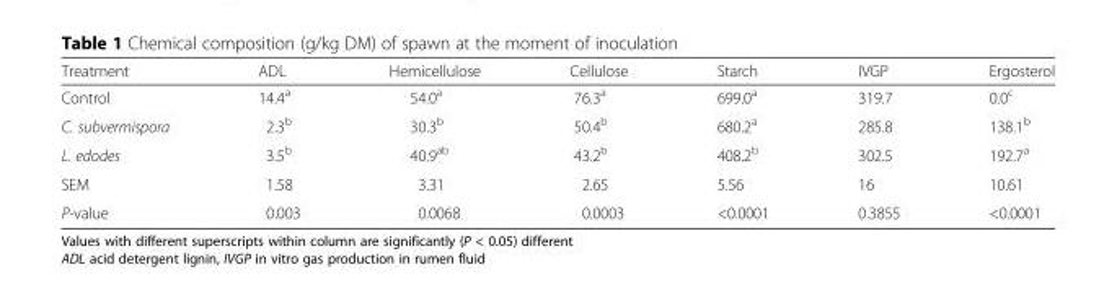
<table><thead><tr><td>Treatment</td><td>ADL</td><td>Hemicellulose</td><td>Cellulose</td><td>Starch</td><td>IVGP</td><td>Ergosterol</td></tr></thead><tbody><tr><td>Control</td><td>14.4<sup>a</sup></td><td>54.0<sup>a</sup></td><td>76.3<sup>a</sup></td><td>699.0<sup>a</sup></td><td>319.7</td><td>0.0<sup>c</sup></td></tr><tr><td>C. subvermispora</td><td>2.3<sup>b</sup></td><td>30.3<sup>b</sup></td><td>50.4<sup>b</sup></td><td>680.2<sup>a</sup></td><td>285.8</td><td>138.1<sup>b</sup></td></tr><tr><td>L. edodes</td><td>3.5<sup>b</sup></td><td>40.9<sup>ab</sup></td><td>43.2<sup>b</sup></td><td>408.2<sup>b</sup></td><td>302.5</td><td>192.7<sup>a</sup></td></tr><tr><td>SEM</td><td>1.58</td><td>3.31</td><td>2.65</td><td>5.56</td><td>16</td><td>10.61</td></tr><tr><td>P-value</td><td>0.003</td><td>0.0068</td><td>0.0003</td><td>&lt;0.0001</td><td>0.3855</td><td>&lt;0.0001</td></tr></tbody></table>